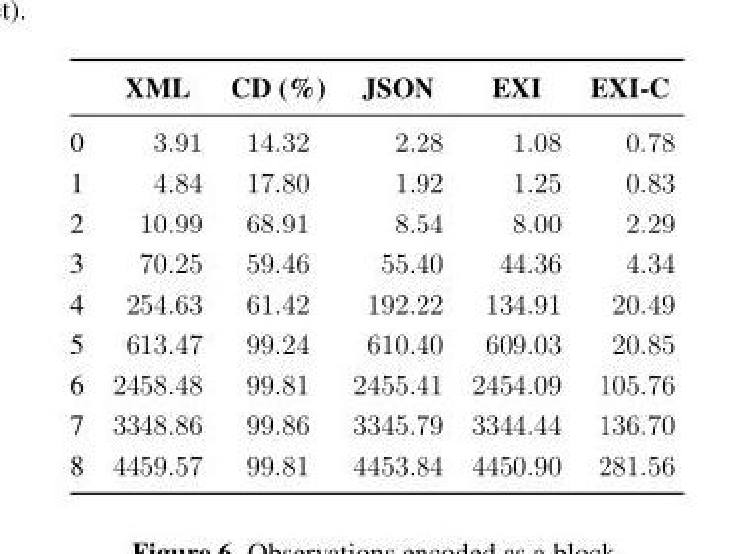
<table><thead><tr><td></td><td>XML</td><td>CD (%)</td><td>JSON</td><td>EXI</td><td>EXI-C</td></tr></thead><tbody><tr><td>0</td><td>3.91</td><td>14.32</td><td>2.28</td><td>1.08</td><td>0.78</td></tr><tr><td>1</td><td>4.84</td><td>17.80</td><td>1.92</td><td>1.25</td><td>0.83</td></tr><tr><td>2</td><td>10.99</td><td>68.91</td><td>8.54</td><td>8.00</td><td>2.29</td></tr><tr><td>3</td><td>70.25</td><td>59.46</td><td>55.40</td><td>44.36</td><td>4.34</td></tr><tr><td>4</td><td>254.63</td><td>61.42</td><td>192.22</td><td>134.91</td><td>20.49</td></tr><tr><td>5</td><td>613.47</td><td>99.24</td><td>610.40</td><td>609.03</td><td>20.85</td></tr><tr><td>6</td><td>2458.48</td><td>99.81</td><td>2455.41</td><td>2454.09</td><td>105.76</td></tr><tr><td>7</td><td>3348.86</td><td>99.86</td><td>3345.79</td><td>3344.44</td><td>136.70</td></tr><tr><td>8</td><td>4459.57</td><td>99.81</td><td>4453.84</td><td>4450.90</td><td>281.56</td></tr></tbody></table>